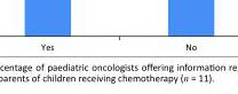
<table><tbody><tr><td>Yes</td><td>No</td></tr></tbody></table>